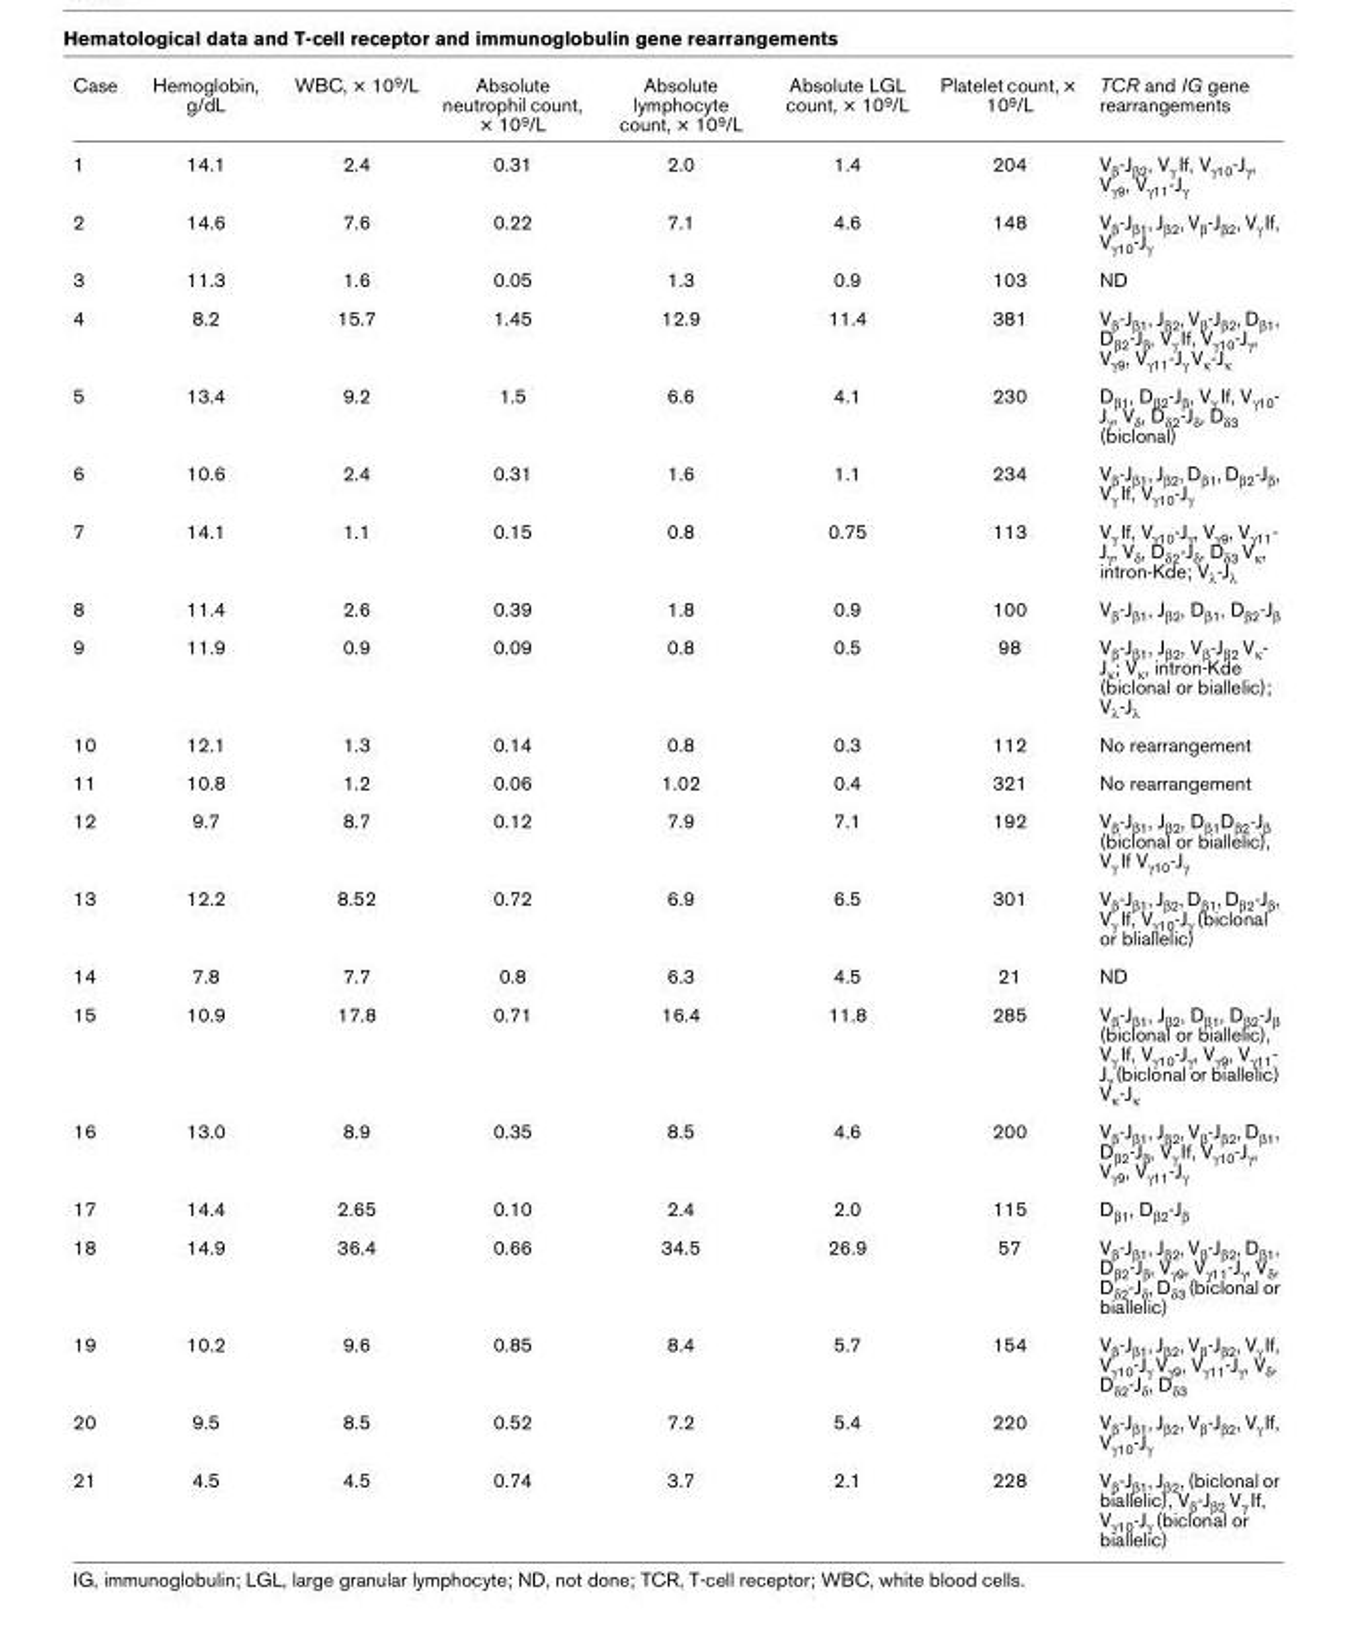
<table><thead><tr><td>Case</td><td>Hemoglobin, g/dL</td><td>WBC, × 10<sup>9</sup>/L</td><td>Absolute neutrophil count, × 10<sup>9</sup>/L</td><td>Absolute lymphocyte count, × 10<sup>9</sup>/L</td><td>Absolute LGL count, × 10<sup>9</sup>/L</td><td>Platelet count, × 10<sup>9</sup>/L</td><td>TCR and IG gene rearrangements</td></tr></thead><tbody><tr><td>1</td><td>14.1</td><td>2.4</td><td>0.31</td><td>2.0</td><td>1.4</td><td>204</td><td>V<sub>β</sub>-J<sub>β2</sub>, V<sub>γ</sub> If, V<sub>γ10</sub>-J<sub>γ</sub>, V<sub>γ9</sub>, V<sub>γ11</sub>-J<sub>γ</sub></td></tr><tr><td>2</td><td>14.6</td><td>7.6</td><td>0.22</td><td>7.1</td><td>4.6</td><td>148</td><td>V<sub>β</sub>-J<sub>β1</sub>, J<sub>β2</sub>, V<sub>β</sub>-J<sub>β2</sub>, V<sub>γ</sub> If, V<sub>γ10</sub>-J<sub>γ</sub></td></tr><tr><td>3</td><td>11.3</td><td>1.6</td><td>0.05</td><td>1.3</td><td>0.9</td><td>103</td><td>ND</td></tr><tr><td>4</td><td>8.2</td><td>15.7</td><td>1.45</td><td>12.9</td><td>11.4</td><td>381</td><td>V<sub>β</sub>-J<sub>β1</sub>, J<sub>β2</sub>, V<sub>β</sub>-J<sub>β2</sub>, D<sub>β1</sub>, D<sub>β2</sub>-J<sub>β</sub>, V<sub>γ</sub> If, V<sub>γ10</sub>-J<sub>γ</sub>, V<sub>γ9</sub>, V<sub>γ11</sub>-J<sub>γ</sub> V<sub>κ</sub>-J<sub>κ</sub></td></tr><tr><td>5</td><td>13.4</td><td>9.2</td><td>1.5</td><td>6.6</td><td>4.1</td><td>230</td><td>D<sub>β1</sub>, D<sub>β2</sub>-J<sub>β</sub>, V<sub>γ</sub> If, V<sub>γ10</sub>- J<sub>γ</sub>, V<sub>δ</sub>, D<sub>δ2</sub>-J<sub>δ</sub>, D<sub>δ3</sub> (biclonal)</td></tr><tr><td>6</td><td>10.6</td><td>2.4</td><td>0.31</td><td>1.6</td><td>1.1</td><td>234</td><td>V<sub>β</sub>-J<sub>β1</sub>, J<sub>β2</sub>, D<sub>β1</sub>, D<sub>β2</sub>-J<sub>β</sub>, V<sub>γ</sub> If, V<sub>γ10</sub>-J<sub>γ</sub></td></tr><tr><td>7</td><td>14.1</td><td>1.1</td><td>0.15</td><td>0.8</td><td>0.75</td><td>113</td><td>V<sub>γ</sub> If, V<sub>γ10</sub>-J<sub>γ</sub>, V<sub>γ9</sub>, V<sub>γ11</sub>- J<sub>γ</sub>, V<sub>δ</sub>, D<sub>δ2</sub>-J<sub>δ</sub>, D<sub>δ3</sub> V<sub>κ</sub>, intron-Kde; V<sub>λ</sub>-J<sub>λ</sub></td></tr><tr><td>8</td><td>11.4</td><td>2.6</td><td>0.39</td><td>1.8</td><td>0.9</td><td>100</td><td>V<sub>β</sub>-J<sub>β1</sub>, J<sub>β2</sub>, D<sub>β1</sub>, D<sub>β2</sub>-J<sub>β</sub></td></tr><tr><td>9</td><td>11.9</td><td>0.9</td><td>0.09</td><td>0.8</td><td>0.5</td><td>98</td><td>V<sub>β</sub>-J<sub>β1</sub>, J<sub>β2</sub>, V<sub>β</sub>-J<sub>β2</sub> V<sub>κ</sub>- J<sub>κ</sub>; V<sub>κ</sub>, intron-Kde (biclonal or biallelic); V<sub>λ</sub>-J<sub>λ</sub></td></tr><tr><td>10</td><td>12.1</td><td>1.3</td><td>0.14</td><td>0.8</td><td>0.3</td><td>112</td><td>No rearrangement</td></tr><tr><td>11</td><td>10.8</td><td>1.2</td><td>0.06</td><td>1.02</td><td>0.4</td><td>321</td><td>No rearrangement</td></tr><tr><td>12</td><td>9.7</td><td>8.7</td><td>0.12</td><td>7.9</td><td>7.1</td><td>192</td><td>V<sub>β</sub>-J<sub>β1</sub>, J<sub>β2</sub>, D<sub>β1</sub>D<sub>β2</sub>-J<sub>β</sub> (biclonal or biallelic), V<sub>γ</sub> If V<sub>γ10</sub>-J<sub>γ</sub></td></tr><tr><td>13</td><td>12.2</td><td>8.52</td><td>0.72</td><td>6.9</td><td>6.5</td><td>301</td><td>V<sub>β</sub>-J<sub>β1</sub>, J<sub>β2</sub>, D<sub>β1</sub>, D<sub>β2</sub>-J<sub>β</sub>, V<sub>γ</sub> If, V<sub>γ10</sub>-J<sub>γ</sub> (biclonal or bliallelic)</td></tr><tr><td>14</td><td>7.8</td><td>7.7</td><td>0.8</td><td>6.3</td><td>4.5</td><td>21</td><td>ND</td></tr><tr><td>15</td><td>10.9</td><td>17.8</td><td>0.71</td><td>16.4</td><td>11.8</td><td>285</td><td>V<sub>β</sub>-J<sub>β1</sub>, J<sub>β2</sub>, D<sub>β1</sub>, D<sub>β2</sub>-J<sub>β</sub> (biclonal or biallelic), V<sub>γ</sub> If, V<sub>γ10</sub>-J<sub>γ</sub>, V<sub>γ9</sub>, V<sub>γ11</sub>- J<sub>γ</sub> (biclonal or biallelic) V<sub>κ</sub>-J<sub>κ</sub></td></tr><tr><td>16</td><td>13.0</td><td>8.9</td><td>0.35</td><td>8.5</td><td>4.6</td><td>200</td><td>V<sub>β</sub>-J<sub>β1</sub>, J<sub>β2</sub>, V<sub>β</sub>-J<sub>β2</sub>, D<sub>β1</sub>, D<sub>β2</sub>-J<sub>β</sub>, V<sub>γ</sub> If, V<sub>γ10</sub>-J<sub>γ</sub>, V<sub>γ9</sub>, V<sub>γ11</sub>-J<sub>γ</sub></td></tr><tr><td>17</td><td>14.4</td><td>2.65</td><td>0.10</td><td>2.4</td><td>2.0</td><td>115</td><td>D<sub>β1</sub>, D<sub>β2</sub>-J<sub>β</sub></td></tr><tr><td>18</td><td>14.9</td><td>36.4</td><td>0.66</td><td>34.5</td><td>26.9</td><td>57</td><td>V<sub>β</sub>-J<sub>β1</sub>, J<sub>β2</sub>, V<sub>β</sub>-J<sub>β2</sub>, D<sub>β1</sub>, D<sub>β2</sub>-J<sub>β</sub>, V<sub>γ9</sub>, V<sub>γ11</sub>-J<sub>γ</sub>, V<sub>δ</sub>, D<sub>δ2</sub>-J<sub>δ</sub>, D<sub>δ3</sub> (biclonal or biallelic)</td></tr><tr><td>19</td><td>10.2</td><td>9.6</td><td>0.85</td><td>8.4</td><td>5.7</td><td>154</td><td>V<sub>β</sub>-J<sub>β1</sub>, J<sub>β2</sub>, V<sub>β</sub>-J<sub>β2</sub>, V<sub>γ</sub> If, V<sub>γ10</sub>-J<sub>γ</sub> V<sub>γ9</sub>, V<sub>γ11</sub>-J<sub>γ</sub>, V<sub>δ</sub>, D<sub>δ2</sub>-J<sub>δ</sub>, D<sub>δ3</sub></td></tr><tr><td>20</td><td>9.5</td><td>8.5</td><td>0.52</td><td>7.2</td><td>5.4</td><td>220</td><td>V<sub>β</sub>-J<sub>β1</sub>, J<sub>β2</sub>, V<sub>β</sub>-J<sub>β2</sub>, V<sub>γ</sub> If, V<sub>γ10</sub>-J<sub>γ</sub></td></tr><tr><td>21</td><td>4.5</td><td>4.5</td><td>0.74</td><td>3.7</td><td>2.1</td><td>228</td><td>V<sub>β</sub>-J<sub>β1</sub>, J<sub>β2</sub>, (biclonal or biallelic), V<sub>β</sub>-J<sub>β2</sub> V<sub>γ</sub> If, V<sub>γ10</sub>-J<sub>γ</sub> (biclonal or biallelic)</td></tr></tbody></table>